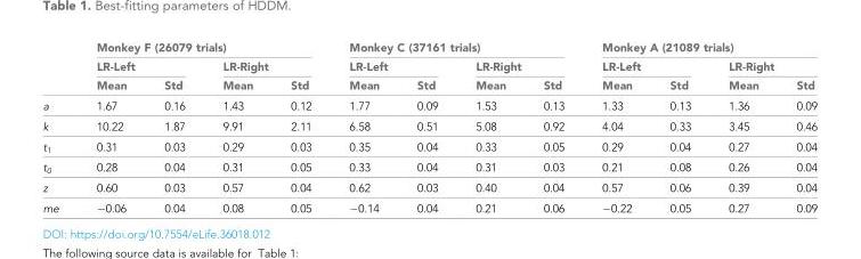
<table><thead><tr><td rowspan="3"></td><td colspan="4">Monkey F (26079 trials)</td><td colspan="4">Monkey C (37161 trials)</td><td colspan="4">Monkey A (21089 trials)</td></tr><tr><td colspan="2">LR-Left</td><td colspan="2">LR-Right</td><td colspan="2">LR-Left</td><td colspan="2">LR-Right</td><td colspan="2">LR-Left</td><td colspan="2">LR-Right</td></tr><tr><td>Mean</td><td>Std</td><td>Mean</td><td>Std</td><td>Mean</td><td>Std</td><td>Mean</td><td>Std</td><td>Mean</td><td>Std</td><td>Mean</td><td>Std</td></tr></thead><tbody><tr><td>a</td><td>1.67</td><td>0.16</td><td>1.43</td><td>0.12</td><td>1.77</td><td>0.09</td><td>1.53</td><td>0.13</td><td>1.33</td><td>0.13</td><td>1.36</td><td>0.09</td></tr><tr><td>k</td><td>10.22</td><td>1.87</td><td>9.91</td><td>2.11</td><td>6.58</td><td>0.51</td><td>5.08</td><td>0.92</td><td>4.04</td><td>0.33</td><td>3.45</td><td>0.46</td></tr><tr><td>t<sub>1</sub></td><td>0.31</td><td>0.03</td><td>0.29</td><td>0.03</td><td>0.35</td><td>0.04</td><td>0.33</td><td>0.05</td><td>0.29</td><td>0.04</td><td>0.27</td><td>0.04</td></tr><tr><td>t<sub>0</sub></td><td>0.28</td><td>0.04</td><td>0.31</td><td>0.05</td><td>0.33</td><td>0.04</td><td>0.31</td><td>0.03</td><td>0.21</td><td>0.08</td><td>0.26</td><td>0.04</td></tr><tr><td>z</td><td>0.60</td><td>0.03</td><td>0.57</td><td>0.04</td><td>0.62</td><td>0.03</td><td>0.40</td><td>0.04</td><td>0.57</td><td>0.06</td><td>0.39</td><td>0.04</td></tr><tr><td>me</td><td>−0.06</td><td>0.04</td><td>0.08</td><td>0.05</td><td>−0.14</td><td>0.04</td><td>0.21</td><td>0.06</td><td>−0.22</td><td>0.05</td><td>0.27</td><td>0.09</td></tr></tbody></table>